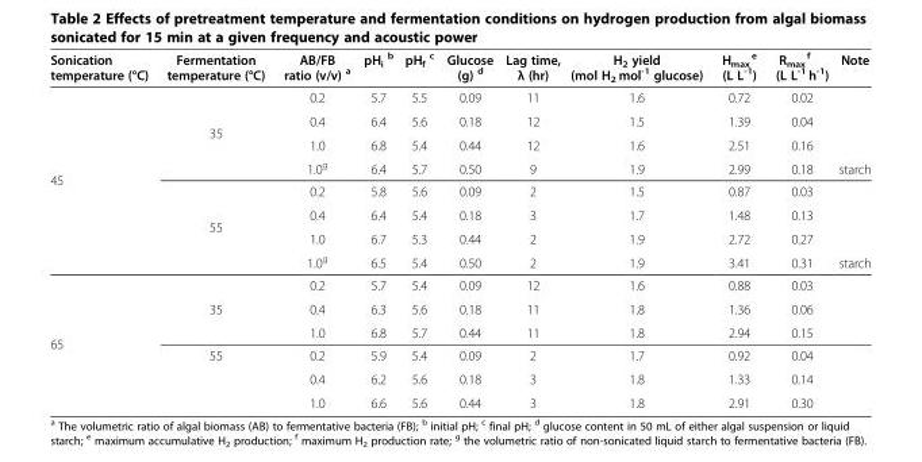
<table><thead><tr><td>Sonication temperature (°C)</td><td>Fermentation temperature (°C)</td><td>AB/FB ratio (v/v) <sup>a</sup></td><td>pH<sub>i</sub> <sup>b</sup></td><td>pH<sub>f</sub> <sup>c</sup></td><td>Glucose (g) <sup>d</sup></td><td>Lag time, λ (hr)</td><td>H<sub>2</sub> yield (mol H<sub>2</sub> mol<sup>-1</sup> glucose)</td><td>H<sub>max</sub> <sup>e</sup> (L L<sup>-1</sup>)</td><td>R<sub>max</sub> <sup>f</sup> (L L<sup>-1</sup> h<sup>-1</sup>)</td><td>Note</td></tr></thead><tbody><tr><td rowspan="8">45</td><td rowspan="3">35</td><td>0.2</td><td>5.7</td><td>5.5</td><td>0.09</td><td>11</td><td>1.6</td><td>0.72</td><td>0.02</td><td></td></tr><tr><td>0.4</td><td>6.4</td><td>5.6</td><td>0.18</td><td>12</td><td>1.5</td><td>1.39</td><td>0.04</td><td></td></tr><tr><td>1.0</td><td>6.8</td><td>5.4</td><td>0.44</td><td>12</td><td>1.6</td><td>2.51</td><td>0.16</td><td></td></tr><tr><td></td><td>1.0<sup>g</sup></td><td>6.4</td><td>5.7</td><td>0.50</td><td>9</td><td>1.9</td><td>2.99</td><td>0.18</td><td>starch</td></tr><tr><td rowspan="3">55</td><td>0.2</td><td>5.8</td><td>5.6</td><td>0.09</td><td>2</td><td>1.5</td><td>0.87</td><td>0.03</td><td></td></tr><tr><td>0.4</td><td>6.4</td><td>5.4</td><td>0.18</td><td>3</td><td>1.7</td><td>1.48</td><td>0.13</td><td></td></tr><tr><td>1.0</td><td>6.7</td><td>5.3</td><td>0.44</td><td>2</td><td>1.9</td><td>2.72</td><td>0.27</td><td></td></tr><tr><td></td><td>1.0<sup>g</sup></td><td>6.5</td><td>5.4</td><td>0.50</td><td>2</td><td>1.9</td><td>3.41</td><td>0.31</td><td>starch</td></tr><tr><td rowspan="6">65</td><td rowspan="2">35</td><td>0.2</td><td>5.7</td><td>5.4</td><td>0.09</td><td>12</td><td>1.6</td><td>0.88</td><td>0.03</td><td></td></tr><tr><td>0.4</td><td>6.3</td><td>5.6</td><td>0.18</td><td>11</td><td>1.8</td><td>1.36</td><td>0.06</td><td></td></tr><tr><td></td><td>1.0</td><td>6.8</td><td>5.7</td><td>0.44</td><td>11</td><td>1.8</td><td>2.94</td><td>0.15</td><td></td></tr><tr><td rowspan="2">55</td><td>0.2</td><td>5.9</td><td>5.4</td><td>0.09</td><td>2</td><td>1.7</td><td>0.92</td><td>0.04</td><td></td></tr><tr><td>0.4</td><td>6.2</td><td>5.6</td><td>0.18</td><td>3</td><td>1.8</td><td>1.33</td><td>0.14</td><td></td></tr><tr><td></td><td>1.0</td><td>6.6</td><td>5.6</td><td>0.44</td><td>3</td><td>1.8</td><td>2.91</td><td>0.30</td><td></td></tr></tbody></table>